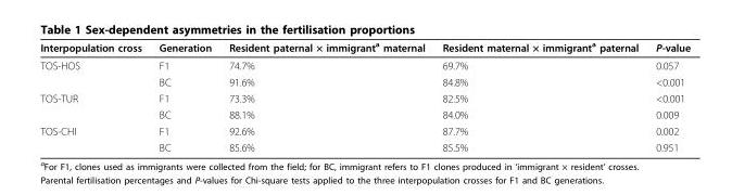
<table><thead><tr><td>Interpopulation cross</td><td>Generation</td><td>Resident paternal × immigrant<sup>a</sup> maternal</td><td>Resident maternal × immigrant<sup>a</sup> paternal</td><td>P-value</td></tr></thead><tbody><tr><td rowspan="2">TOS-HOS</td><td>F1</td><td>74.7%</td><td>69.7%</td><td>0.057</td></tr><tr><td>BC</td><td>91.6%</td><td>84.8%</td><td>&lt;0.001</td></tr><tr><td rowspan="2">TOS-TUR</td><td>F1</td><td>73.3%</td><td>82.5%</td><td>&lt;0.001</td></tr><tr><td>BC</td><td>88.1%</td><td>84.0%</td><td>0.009</td></tr><tr><td rowspan="2">TOS-CHI</td><td>F1</td><td>92.6%</td><td>87.7%</td><td>0.002</td></tr><tr><td>BC</td><td>85.6%</td><td>85.5%</td><td>0.951</td></tr></tbody></table>